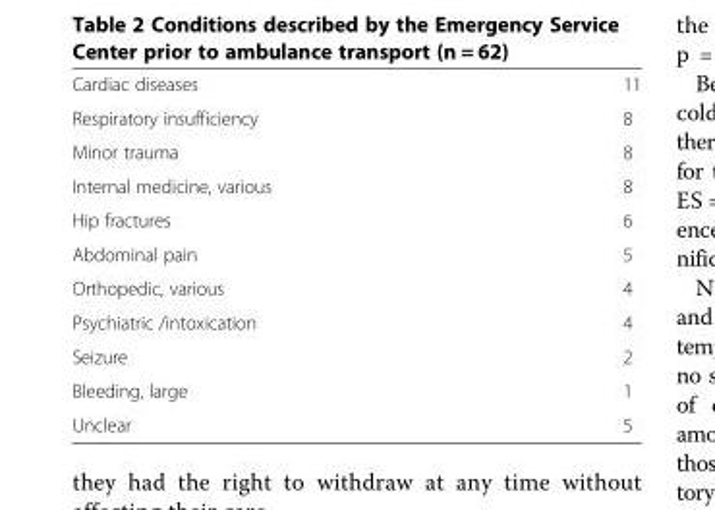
<table><tbody><tr><td>Cardiac diseases</td><td>11</td></tr><tr><td>Respiratory insufficiency</td><td>8</td></tr><tr><td>Minor trauma</td><td>8</td></tr><tr><td>Internal medicine, various</td><td>8</td></tr><tr><td>Hip fractures</td><td>6</td></tr><tr><td>Abdominal pain</td><td>5</td></tr><tr><td>Orthopedic, various</td><td>4</td></tr><tr><td>Psychiatric /intoxication</td><td>4</td></tr><tr><td>Seizure</td><td>2</td></tr><tr><td>Bleeding, large</td><td>1</td></tr><tr><td>Unclear</td><td>5</td></tr></tbody></table>